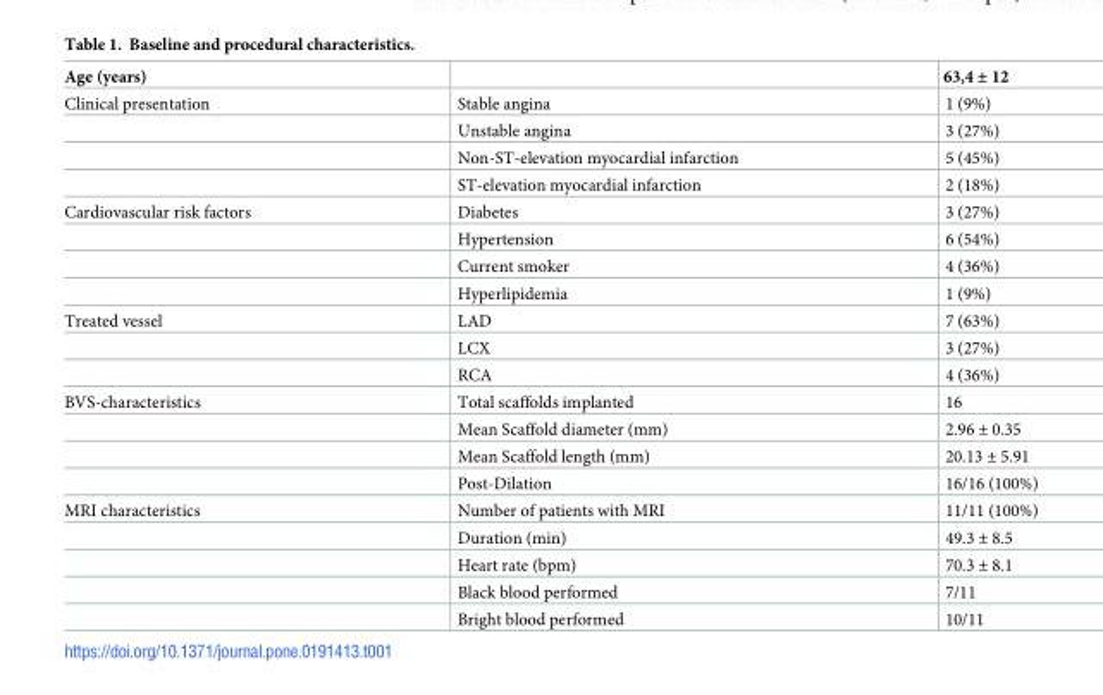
<table><thead><tr><td>Age (years)</td><td></td><td>63,4 ± 12</td></tr></thead><tbody><tr><td rowspan="4">Clinical presentation</td><td>Stable angina</td><td>1 (9%)</td></tr><tr><td>Unstable angina</td><td>3 (27%)</td></tr><tr><td>Non-ST-elevation myocardial infarction</td><td>5 (45%)</td></tr><tr><td>ST-elevation myocardial infarction</td><td>2 (18%)</td></tr><tr><td rowspan="4">Cardiovascular risk factors</td><td>Diabetes</td><td>3 (27%)</td></tr><tr><td>Hypertension</td><td>6 (54%)</td></tr><tr><td>Current smoker</td><td>4 (36%)</td></tr><tr><td>Hyperlipidemia</td><td>1 (9%)</td></tr><tr><td rowspan="3">Treated vessel</td><td>LAD</td><td>7 (63%)</td></tr><tr><td>LCX</td><td>3 (27%)</td></tr><tr><td>RCA</td><td>4 (36%)</td></tr><tr><td rowspan="4">BVS-characteristics</td><td>Total scaffolds implanted</td><td>16</td></tr><tr><td>Mean Scaffold diameter (mm)</td><td>2.96 ± 0.35</td></tr><tr><td>Mean Scaffold length (mm)</td><td>20.13 ± 5.91</td></tr><tr><td>Post-Dilation</td><td>16/16 (100%)</td></tr><tr><td rowspan="5">MRI characteristics</td><td>Number of patients with MRI</td><td>11/11 (100%)</td></tr><tr><td>Duration (min)</td><td>49.3 ± 8.5</td></tr><tr><td>Heart rate (bpm)</td><td>70.3 ± 8.1</td></tr><tr><td>Black blood performed</td><td>7/11</td></tr><tr><td>Bright blood performed</td><td>10/11</td></tr></tbody></table>